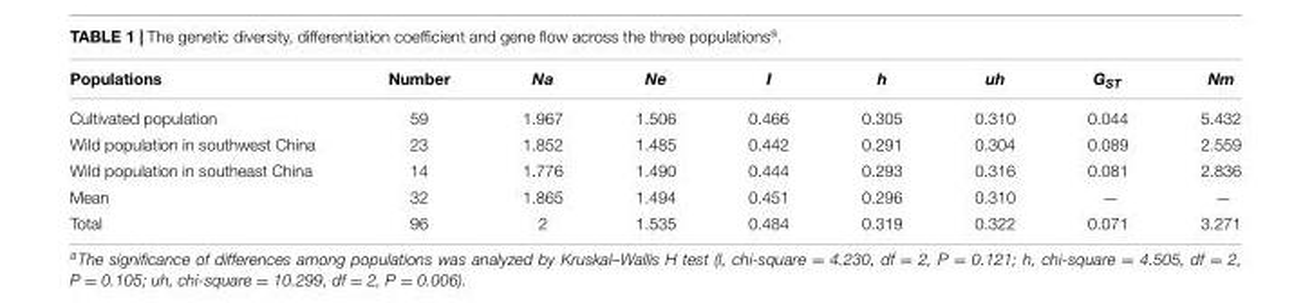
<table><thead><tr><td>Populations</td><td>Number</td><td>Na</td><td>Ne</td><td>I</td><td>h</td><td>uh</td><td>G<sub>ST</sub></td><td>Nm</td></tr></thead><tbody><tr><td>Cultivated population</td><td>59</td><td>1.967</td><td>1.506</td><td>0.466</td><td>0.305</td><td>0.310</td><td>0.044</td><td>5.432</td></tr><tr><td>Wild population in southwest China</td><td>23</td><td>1.852</td><td>1.485</td><td>0.442</td><td>0.291</td><td>0.304</td><td>0.089</td><td>2.559</td></tr><tr><td>Wild population in southeast China</td><td>14</td><td>1.776</td><td>1.490</td><td>0.444</td><td>0.293</td><td>0.316</td><td>0.081</td><td>2.836</td></tr><tr><td>Mean</td><td>32</td><td>1.865</td><td>1.494</td><td>0.451</td><td>0.296</td><td>0.310</td><td>—</td><td>—</td></tr><tr><td>Total</td><td>96</td><td>2</td><td>1.535</td><td>0.484</td><td>0.319</td><td>0.322</td><td>0.071</td><td>3.271</td></tr></tbody></table>